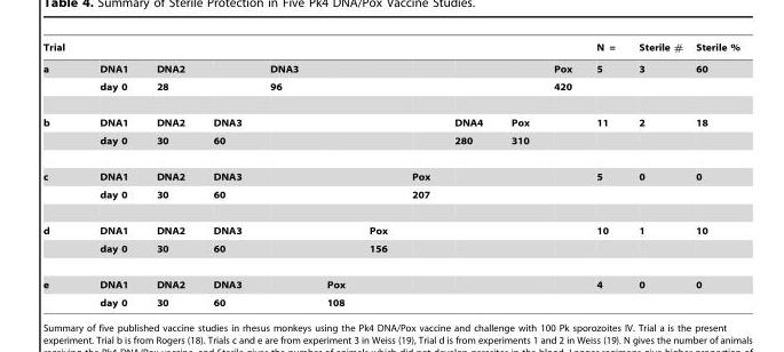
<table><thead><tr><td>Trial</td><td></td><td></td><td></td><td></td><td></td><td></td><td></td><td></td><td></td><td></td><td>N =</td><td>Sterile #</td><td>Sterile %</td></tr></thead><tbody><tr><td rowspan="2">a</td><td>DNA1</td><td>DNA2</td><td></td><td>DNA3</td><td></td><td></td><td></td><td></td><td></td><td>Pox</td><td>5</td><td>3</td><td>60</td></tr><tr><td>day 0</td><td>28</td><td></td><td>96</td><td></td><td></td><td></td><td></td><td></td><td>420</td><td></td><td></td><td></td></tr><tr><td rowspan="2">b</td><td>DNA1</td><td>DNA2</td><td>DNA3</td><td></td><td></td><td></td><td></td><td>DNA4</td><td>Pox</td><td></td><td>11</td><td>2</td><td>18</td></tr><tr><td>day 0</td><td>30</td><td>60</td><td></td><td></td><td></td><td></td><td>280</td><td>310</td><td></td><td></td><td></td><td></td></tr><tr><td rowspan="2">c</td><td>DNA1</td><td>DNA2</td><td>DNA3</td><td></td><td></td><td></td><td>Pox</td><td></td><td></td><td></td><td>5</td><td>0</td><td>0</td></tr><tr><td>day 0</td><td>30</td><td>60</td><td></td><td></td><td></td><td>207</td><td></td><td></td><td></td><td></td><td></td><td></td></tr><tr><td rowspan="2">d</td><td>DNA1</td><td>DNA2</td><td>DNA3</td><td></td><td></td><td>Pox</td><td></td><td></td><td></td><td></td><td>10</td><td>1</td><td>10</td></tr><tr><td>day 0</td><td>30</td><td>60</td><td></td><td></td><td>156</td><td></td><td></td><td></td><td></td><td></td><td></td><td></td></tr><tr><td rowspan="2">e</td><td>DNA1</td><td>DNA2</td><td>DNA3</td><td></td><td>Pox</td><td></td><td></td><td></td><td></td><td></td><td>4</td><td>0</td><td>0</td></tr><tr><td>day 0</td><td>30</td><td>60</td><td></td><td>108</td><td></td><td></td><td></td><td></td><td></td><td></td><td></td><td></td></tr></tbody></table>